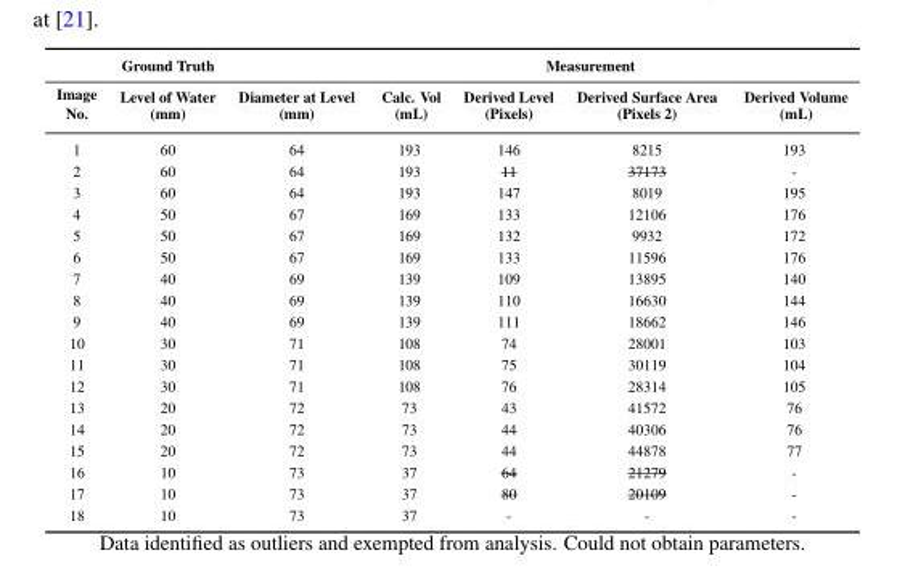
<table><thead><tr><td rowspan="2">Image No.</td><td rowspan="2">Ground Truth Level of Water (mm)</td><td rowspan="2">Diameter at Level (mm)</td><td rowspan="2">Calc. Vol (mL)</td><td colspan="2">Measurement</td><td rowspan="2">Derived Volume (mL)</td></tr><tr><td>Derived Level (Pixels)</td><td>Derived Surface Area (Pixels 2)</td></tr></thead><tbody><tr><td>1</td><td>60</td><td>64</td><td>193</td><td>146</td><td>8215</td><td>193</td></tr><tr><td>2</td><td>60</td><td>64</td><td>193</td><td>11</td><td>37173</td><td>-</td></tr><tr><td>3</td><td>60</td><td>64</td><td>193</td><td>147</td><td>8019</td><td>195</td></tr><tr><td>4</td><td>50</td><td>67</td><td>169</td><td>133</td><td>12106</td><td>176</td></tr><tr><td>5</td><td>50</td><td>67</td><td>169</td><td>132</td><td>9932</td><td>172</td></tr><tr><td>6</td><td>50</td><td>67</td><td>169</td><td>133</td><td>11596</td><td>176</td></tr><tr><td>7</td><td>40</td><td>69</td><td>139</td><td>109</td><td>13895</td><td>140</td></tr><tr><td>8</td><td>40</td><td>69</td><td>139</td><td>110</td><td>16630</td><td>144</td></tr><tr><td>9</td><td>40</td><td>69</td><td>139</td><td>111</td><td>18662</td><td>146</td></tr><tr><td>10</td><td>30</td><td>71</td><td>108</td><td>74</td><td>28001</td><td>103</td></tr><tr><td>11</td><td>30</td><td>71</td><td>108</td><td>75</td><td>30119</td><td>104</td></tr><tr><td>12</td><td>30</td><td>71</td><td>108</td><td>76</td><td>28314</td><td>105</td></tr><tr><td>13</td><td>20</td><td>72</td><td>73</td><td>43</td><td>41572</td><td>76</td></tr><tr><td>14</td><td>20</td><td>72</td><td>73</td><td>44</td><td>40306</td><td>76</td></tr><tr><td>15</td><td>20</td><td>72</td><td>73</td><td>44</td><td>44878</td><td>77</td></tr><tr><td>16</td><td>10</td><td>73</td><td>37</td><td>64</td><td>21279</td><td>-</td></tr><tr><td>17</td><td>10</td><td>73</td><td>37</td><td>80</td><td>20109</td><td>-</td></tr><tr><td>18</td><td>10</td><td>73</td><td>37</td><td>-</td><td>-</td><td>-</td></tr></tbody></table>